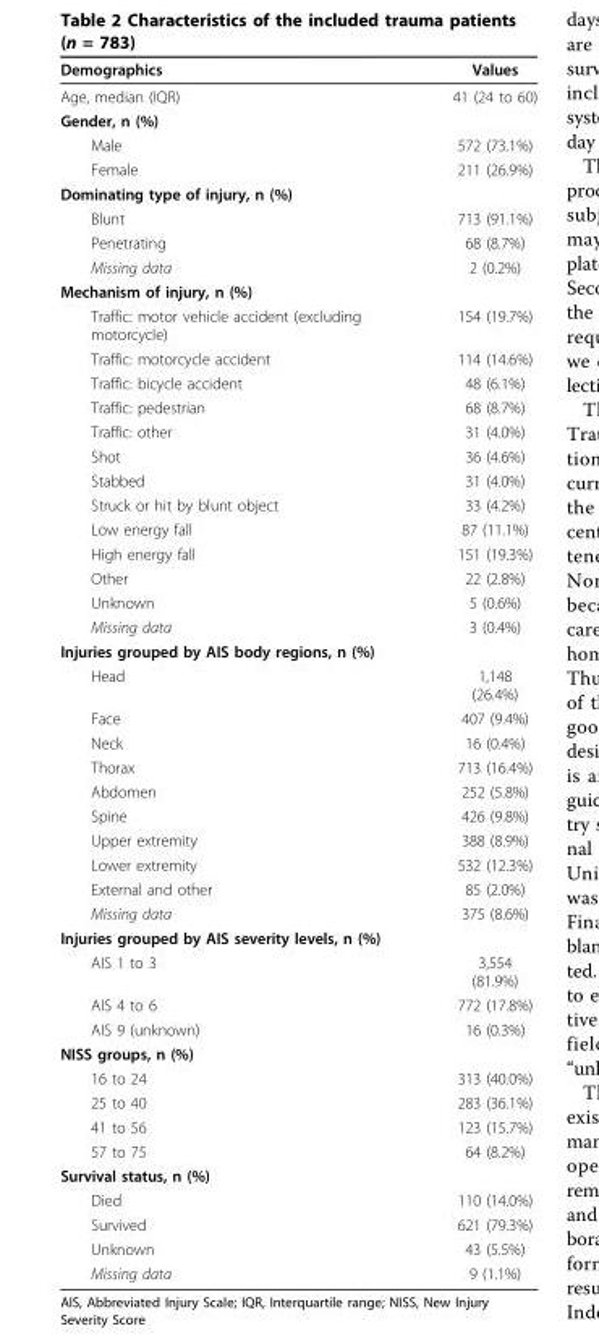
<table><thead><tr><td>Demographics</td><td>Values</td></tr></thead><tbody><tr><td>Age, median (IQR)</td><td>41 (24 to 60)</td></tr><tr><td colspan="2">Gender, n (%)</td></tr><tr><td>Male</td><td>572 (73.1%)</td></tr><tr><td>Female</td><td>211 (26.9%)</td></tr><tr><td colspan="2">Dominating type of injury, n (%)</td></tr><tr><td>Blunt</td><td>713 (91.1%)</td></tr><tr><td>Penetrating</td><td>68 (8.7%)</td></tr><tr><td>Missing data</td><td>2 (0.2%)</td></tr><tr><td colspan="2">Mechanism of injury, n (%)</td></tr><tr><td>Traffic: motor vehicle accident (excluding motorcycle)</td><td>154 (19.7%)</td></tr><tr><td>Traffic: motorcycle accident</td><td>114 (14.6%)</td></tr><tr><td>Traffic: bicycle accident</td><td>48 (6.1%)</td></tr><tr><td>Traffic: pedestrian</td><td>68 (8.7%)</td></tr><tr><td>Traffic: other</td><td>31 (4.0%)</td></tr><tr><td>Shot</td><td>36 (4.6%)</td></tr><tr><td>Stabbed</td><td>31 (4.0%)</td></tr><tr><td>Struck or hit by blunt object</td><td>33 (4.2%)</td></tr><tr><td>Low energy fall</td><td>87 (11.1%)</td></tr><tr><td>High energy fall</td><td>151 (19.3%)</td></tr><tr><td>Other</td><td>22 (2.8%)</td></tr><tr><td>Unknown</td><td>5 (0.6%)</td></tr><tr><td>Missing data</td><td>3 (0.4%)</td></tr><tr><td colspan="2">Injuries grouped by AIS body regions, n (%)</td></tr><tr><td>Head</td><td>1,148 (26.4%)</td></tr><tr><td>Face</td><td>407 (9.4%)</td></tr><tr><td>Neck</td><td>16 (0.4%)</td></tr><tr><td>Thorax</td><td>713 (16.4%)</td></tr><tr><td>Abdomen</td><td>252 (5.8%)</td></tr><tr><td>Spine</td><td>426 (9.8%)</td></tr><tr><td>Upper extremity</td><td>388 (8.9%)</td></tr><tr><td>Lower extremity</td><td>532 (12.3%)</td></tr><tr><td>External and other</td><td>85 (2.0%)</td></tr><tr><td>Missing data</td><td>375 (8.6%)</td></tr><tr><td colspan="2">Injuries grouped by AIS severity levels, n (%)</td></tr><tr><td>AIS 1 to 3</td><td>3,554 (81.9%)</td></tr><tr><td>AIS 4 to 6</td><td>772 (17.8%)</td></tr><tr><td>AIS 9 (unknown)</td><td>16 (0.3%)</td></tr><tr><td colspan="2">NISS groups, n (%)</td></tr><tr><td>16 to 24</td><td>313 (40.0%)</td></tr><tr><td>25 to 40</td><td>283 (36.1%)</td></tr><tr><td>41 to 56</td><td>123 (15.7%)</td></tr><tr><td>57 to 75</td><td>64 (8.2%)</td></tr><tr><td colspan="2">Survival status, n (%)</td></tr><tr><td>Died</td><td>110 (14.0%)</td></tr><tr><td>Survived</td><td>621 (79.3%)</td></tr><tr><td>Unknown</td><td>43 (5.5%)</td></tr><tr><td>Missing data</td><td>9 (1.1%)</td></tr></tbody></table>